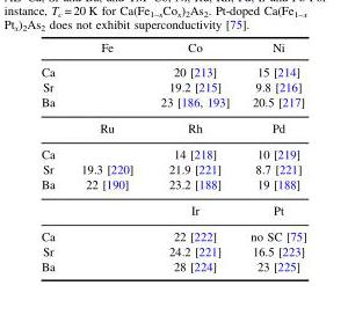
<table><thead><tr><td></td><td>Fe</td><td>Co</td><td>Ni</td></tr></thead><tbody><tr><td>Ca</td><td></td><td>20 [213]</td><td>15 [214]</td></tr><tr><td>Sr</td><td></td><td>19.2 [215]</td><td>9.8 [216]</td></tr><tr><td rowspan="2">Ba</td><td></td><td>23 [186, 193]</td><td>20.5 [217]</td></tr><tr><td>Ru</td><td>Rh</td><td>Pd</td></tr><tr><td>Ca</td><td></td><td>14 [218]</td><td>10 [219]</td></tr><tr><td>Sr</td><td>19.3 [220]</td><td>21.9 [221]</td><td>8.7 [221]</td></tr><tr><td rowspan="2">Ba</td><td>22 [190]</td><td>23.2 [188]</td><td>19 [188]</td></tr><tr><td></td><td>Ir</td><td>Pt</td></tr><tr><td>Ca</td><td></td><td>22 [222]</td><td>no SC [75]</td></tr><tr><td>Sr</td><td></td><td>24.2 [221]</td><td>16.5 [223]</td></tr><tr><td>Ba</td><td></td><td>28 [224]</td><td>23 [225]</td></tr></tbody></table>